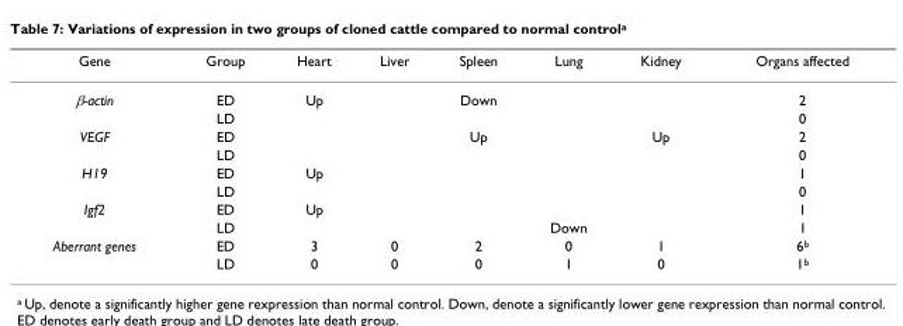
<table><thead><tr><td>Gene</td><td>Group</td><td>Heart</td><td>Liver</td><td>Spleen</td><td>Lung</td><td>Kidney</td><td>Organs affected</td></tr></thead><tbody><tr><td rowspan="2">β-actin</td><td>ED</td><td>Up</td><td></td><td>Down</td><td></td><td></td><td>2</td></tr><tr><td>LD</td><td></td><td></td><td></td><td></td><td></td><td>0</td></tr><tr><td rowspan="2">VEGF</td><td>ED</td><td></td><td></td><td>Up</td><td></td><td>Up</td><td>2</td></tr><tr><td>LD</td><td></td><td></td><td></td><td></td><td></td><td>0</td></tr><tr><td rowspan="2">H19</td><td>ED</td><td>Up</td><td></td><td></td><td></td><td></td><td>1</td></tr><tr><td>LD</td><td></td><td></td><td></td><td></td><td></td><td>0</td></tr><tr><td rowspan="2">Igf2</td><td>ED</td><td>Up</td><td></td><td></td><td></td><td></td><td>1</td></tr><tr><td>LD</td><td></td><td></td><td></td><td>Down</td><td></td><td>1</td></tr><tr><td rowspan="2">Aberrant genes</td><td>ED</td><td>3</td><td>0</td><td>2</td><td>0</td><td>1</td><td>6<sup>b</sup></td></tr><tr><td>LD</td><td>0</td><td>0</td><td>0</td><td>1</td><td>0</td><td>1<sup>b</sup></td></tr></tbody></table>